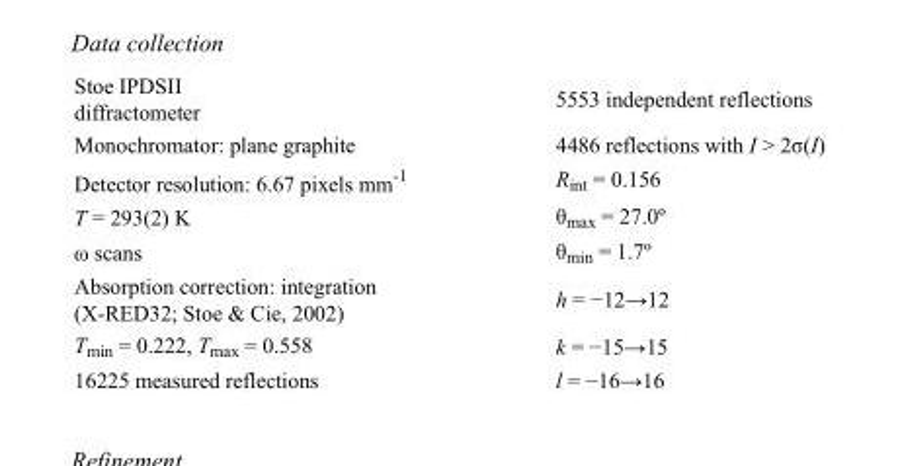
<table><tbody><tr><td>Stoe IPDSII diffractometer</td><td>5553 independent reflections</td></tr><tr><td>Monochromator: plane graphite</td><td>4486 reflections with I &gt; 2σ(I)</td></tr><tr><td>Detector resolution: 6.67 pixels mm<sup>-1</sup></td><td>R<sub>int</sub> = 0.156</td></tr><tr><td>T = 293(2) K</td><td>θ<sub>max</sub> = 27.0º</td></tr><tr><td>ω scans</td><td>θ<sub>min</sub> = 1.7º</td></tr><tr><td>Absorption correction: integration (X-RED32; Stoe &amp; Cie, 2002)</td><td>h = −12→12</td></tr><tr><td>T<sub>min</sub> = 0.222, T<sub>max</sub> = 0.558</td><td>k = −15→15</td></tr><tr><td>16225 measured reflections</td><td>l = −16→16</td></tr></tbody></table>